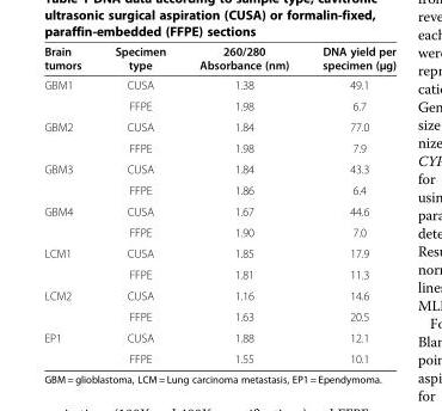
<table><thead><tr><td>Brain tumors</td><td>Specimen type</td><td>260/280 Absorbance (nm)</td><td>DNA yield per specimen (μg)</td></tr></thead><tbody><tr><td rowspan="2">GBM1</td><td>CUSA</td><td>1.38</td><td>49.1</td></tr><tr><td>FFPE</td><td>1.98</td><td>6.7</td></tr><tr><td rowspan="2">GBM2</td><td>CUSA</td><td>1.84</td><td>77.0</td></tr><tr><td>FFPE</td><td>1.98</td><td>7.9</td></tr><tr><td rowspan="2">GBM3</td><td>CUSA</td><td>1.84</td><td>43.3</td></tr><tr><td>FFPE</td><td>1.86</td><td>6.4</td></tr><tr><td rowspan="2">GBM4</td><td>CUSA</td><td>1.67</td><td>44.6</td></tr><tr><td>FFPE</td><td>1.90</td><td>7.0</td></tr><tr><td rowspan="2">LCM1</td><td>CUSA</td><td>1.85</td><td>17.9</td></tr><tr><td>FFPE</td><td>1.81</td><td>11.3</td></tr><tr><td rowspan="2">LCM2</td><td>CUSA</td><td>1.16</td><td>14.6</td></tr><tr><td>FFPE</td><td>1.63</td><td>20.5</td></tr><tr><td rowspan="2">EP1</td><td>CUSA</td><td>1.88</td><td>12.1</td></tr><tr><td>FFPE</td><td>1.55</td><td>10.1</td></tr></tbody></table>